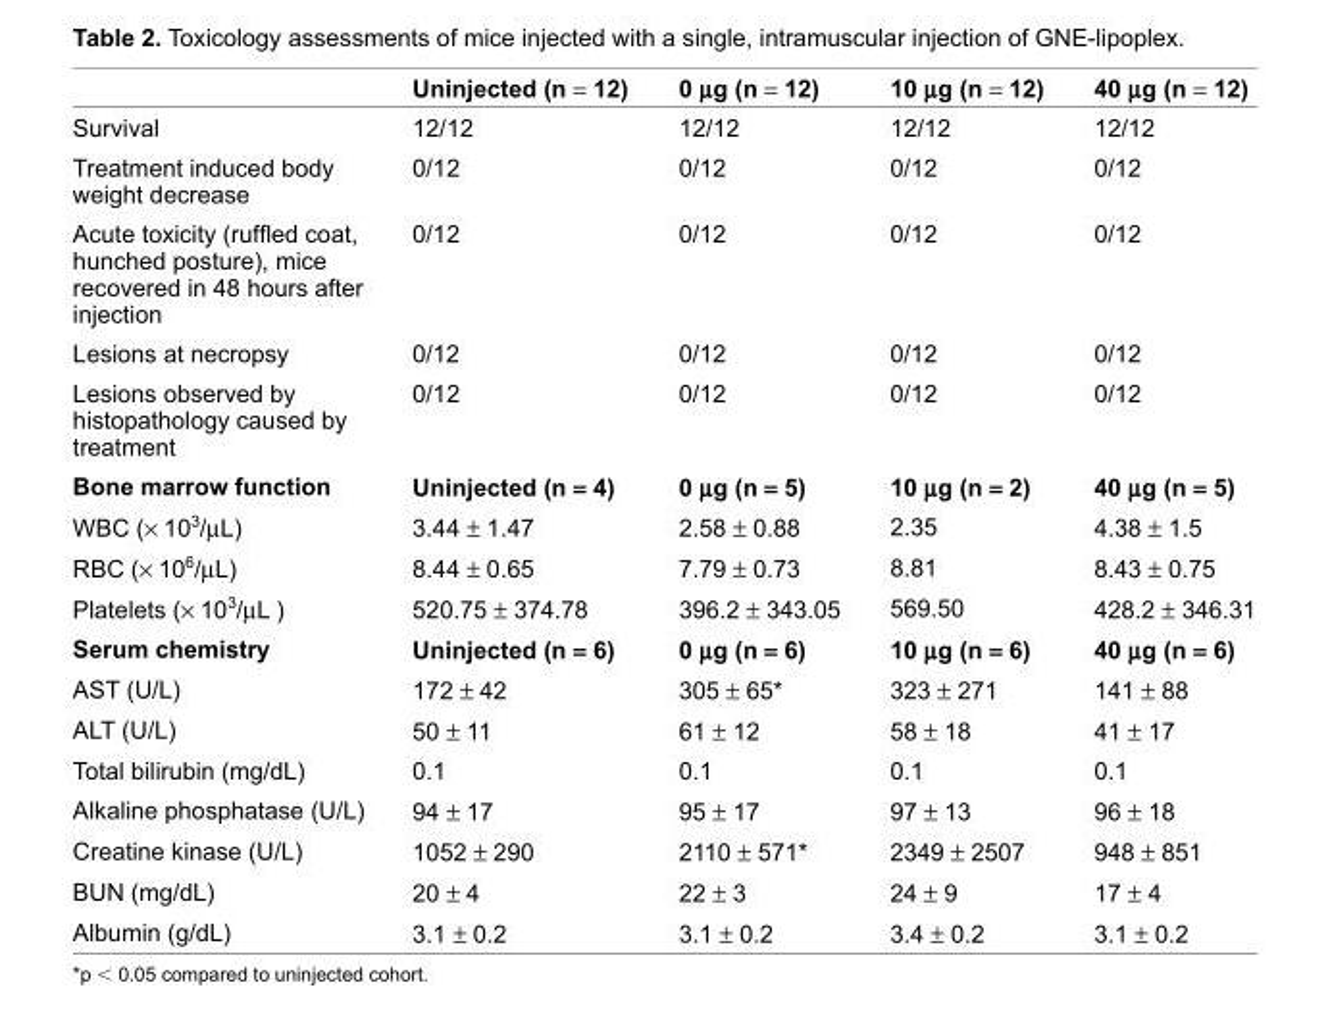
<table><thead><tr><td></td><td>Uninjected (n = 12)</td><td>0 μg (n = 12)</td><td>10 μg (n = 12)</td><td>40 μg (n = 12)</td></tr></thead><tbody><tr><td>Survival</td><td>12/12</td><td>12/12</td><td>12/12</td><td>12/12</td></tr><tr><td>Treatment induced body weight decrease</td><td>0/12</td><td>0/12</td><td>0/12</td><td>0/12</td></tr><tr><td>Acute toxicity (ruffl ed coat, hunched posture), mice recovered in 48 hours after injection</td><td>0/12</td><td>0/12</td><td>0/12</td><td>0/12</td></tr><tr><td>Lesions at necropsy</td><td>0/12</td><td>0/12</td><td>0/12</td><td>0/12</td></tr><tr><td>Lesions observed by histopathology caused by treatment</td><td>0/12</td><td>0/12</td><td>0/12</td><td>0/12</td></tr><tr><td>Bone marrow function</td><td>Uninjected (n = 4)</td><td>0 μg (n = 5)</td><td>10 μg (n = 2)</td><td>40 μg (n = 5)</td></tr><tr><td>WBC (× 10<sup>3</sup>/μL)</td><td>3.44 ± 1.47</td><td>2.58 ± 0.88</td><td>2.35</td><td>4.38 ± 1.5</td></tr><tr><td>RBC (× 10<sup>6</sup>/μL)</td><td>8.44 ± 0.65</td><td>7.79 ± 0.73</td><td>8.81</td><td>8.43 ± 0.75</td></tr><tr><td>Platelets (× 10<sup>3</sup>/μL )</td><td>520.75 ± 374.78</td><td>396.2 ± 343.05</td><td>569.50</td><td>428.2 ± 346.31</td></tr><tr><td>Serum chemistry</td><td>Uninjected (n = 6)</td><td>0 μg (n = 6)</td><td>10 μg (n = 6)</td><td>40 μg (n = 6)</td></tr><tr><td>AST (U/L)</td><td>172 ± 42</td><td>305 ± 65*</td><td>323 ± 271</td><td>141 ± 88</td></tr><tr><td>ALT (U/L)</td><td>50 ± 11</td><td>61 ± 12</td><td>58 ± 18</td><td>41 ± 17</td></tr><tr><td>Total bilirubin (mg/dL)</td><td>0.1</td><td>0.1</td><td>0.1</td><td>0.1</td></tr><tr><td>Alkaline phosphatase (U/L)</td><td>94 ± 17</td><td>95 ± 17</td><td>97 ± 13</td><td>96 ± 18</td></tr><tr><td>Creatine kinase (U/L)</td><td>1052 ± 290</td><td>2110 ± 571*</td><td>2349 ± 2507</td><td>948 ± 851</td></tr><tr><td>BUN (mg/dL)</td><td>20 ± 4</td><td>22 ± 3</td><td>24 ± 9</td><td>17 ± 4</td></tr><tr><td>Albumin (g/dL)</td><td>3.1 ± 0.2</td><td>3.1 ± 0.2</td><td>3.4 ± 0.2</td><td>3.1 ± 0.2</td></tr></tbody></table>